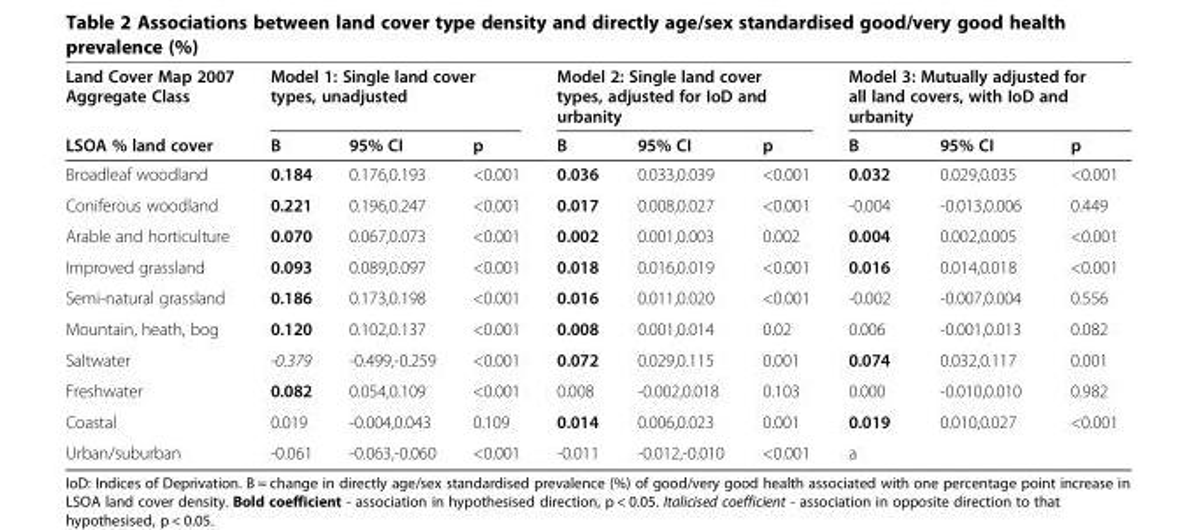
<table><thead><tr><td rowspan="2">Land Cover Map 2007 Aggregate Class LSOA % land cover</td><td colspan="3">Model 1: Single land cover types, unadjusted</td><td colspan="3">Model 2: Single land cover types, adjusted for IoD and urbanity</td><td colspan="3">Model 3: Mutually adjusted for all land covers, with IoD and urbanity</td></tr><tr><td>B</td><td>95% CI</td><td>p</td><td>B</td><td>95% CI</td><td>p</td><td>B</td><td>95% CI</td><td>p</td></tr></thead><tbody><tr><td>Broadleaf woodland</td><td>0.184</td><td>0.176,0.193</td><td>&lt;0.001</td><td>0.036</td><td>0.033,0.039</td><td>&lt;0.001</td><td>0.032</td><td>0.029,0.035</td><td>&lt;0.001</td></tr><tr><td>Coniferous woodland</td><td>0.221</td><td>0.196,0.247</td><td>&lt;0.001</td><td>0.017</td><td>0.008,0.027</td><td>&lt;0.001</td><td>-0.004</td><td>-0.013,0.006</td><td>0.449</td></tr><tr><td>Arable and horticulture</td><td>0.070</td><td>0.067,0.073</td><td>&lt;0.001</td><td>0.002</td><td>0.001,0.003</td><td>0.002</td><td>0.004</td><td>0.002,0.005</td><td>&lt;0.001</td></tr><tr><td>Improved grassland</td><td>0.093</td><td>0.089,0.097</td><td>&lt;0.001</td><td>0.018</td><td>0.016,0.019</td><td>&lt;0.001</td><td>0.016</td><td>0.014,0.018</td><td>&lt;0.001</td></tr><tr><td>Semi-natural grassland</td><td>0.186</td><td>0.173,0.198</td><td>&lt;0.001</td><td>0.016</td><td>0.011,0.020</td><td>&lt;0.001</td><td>-0.002</td><td>-0.007,0.004</td><td>0.556</td></tr><tr><td>Mountain, heath, bog</td><td>0.120</td><td>0.102,0.137</td><td>&lt;0.001</td><td>0.008</td><td>0.001,0.014</td><td>0.02</td><td>0.006</td><td>-0.001,0.013</td><td>0.082</td></tr><tr><td>Saltwater</td><td>-0.379</td><td>-0.499,-0.259</td><td>&lt;0.001</td><td>0.072</td><td>0.029,0.115</td><td>0.001</td><td>0.074</td><td>0.032,0.117</td><td>0.001</td></tr><tr><td>Freshwater</td><td>0.082</td><td>0.054,0.109</td><td>&lt;0.001</td><td>0.008</td><td>-0.002,0.018</td><td>0.103</td><td>0.000</td><td>-0.010,0.010</td><td>0.982</td></tr><tr><td>Coastal</td><td>0.019</td><td>-0.004,0.043</td><td>0.109</td><td>0.014</td><td>0.006,0.023</td><td>0.001</td><td>0.019</td><td>0.010,0.027</td><td>&lt;0.001</td></tr><tr><td>Urban/suburban</td><td>-0.061</td><td>-0.063,-0.060</td><td>&lt;0.001</td><td>-0.011</td><td>-0.012,-0.010</td><td>&lt;0.001</td><td>a</td><td></td><td></td></tr></tbody></table>